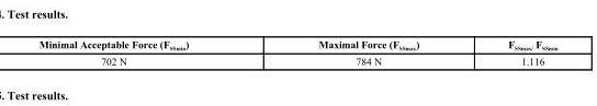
<table><thead><tr><td>Minimal Acceptable Force (F<sub>SSmin</sub>)</td><td>Maximal Force (F<sub>SSmax</sub>)</td><td>F<sub>SSmax/</sub> F<sub>SSmin</sub></td></tr></thead><tbody><tr><td>702 N</td><td>784 N</td><td>1.116</td></tr></tbody></table>